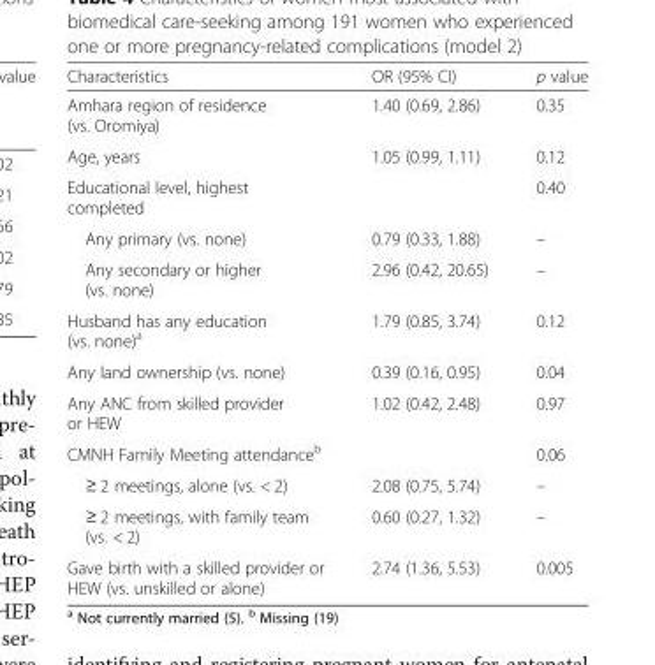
<table><thead><tr><td>Characteristics</td><td>OR (95% CI)</td><td>p value</td></tr></thead><tbody><tr><td>Amhara region of residence (vs. Oromiya)</td><td>1.40 (0.69, 2.86)</td><td>0.35</td></tr><tr><td>Age, years</td><td>1.05 (0.99, 1.11)</td><td>0.12</td></tr><tr><td>Educational level, highest completed</td><td></td><td>0.40</td></tr><tr><td>Any primary (vs. none)</td><td>0.79 (0.33, 1.88)</td><td>–</td></tr><tr><td>Any secondary or higher (vs. none)</td><td>2.96 (0.42, 20.65)</td><td>–</td></tr><tr><td>Husband has any education (vs. none)<sup>a</sup></td><td>1.79 (0.85, 3.74)</td><td>0.12</td></tr><tr><td>Any land ownership (vs. none)</td><td>0.39 (0.16, 0.95)</td><td>0.04</td></tr><tr><td>Any ANC from skilled provider or HEW</td><td>1.02 (0.42, 2.48)</td><td>0.97</td></tr><tr><td>CMNH Family Meeting attendance<sup>b</sup></td><td></td><td>0.06</td></tr><tr><td>≥ 2 meetings, alone (vs. &lt; 2)</td><td>2.08 (0.75, 5.74)</td><td>–</td></tr><tr><td>≥ 2 meetings, with family team (vs. &lt; 2)</td><td>0.60 (0.27, 1.32)</td><td>–</td></tr><tr><td>Gave birth with a skilled provider or HEW (vs. unskilled or alone)</td><td>2.74 (1.36, 5.53)</td><td>0.005</td></tr></tbody></table>